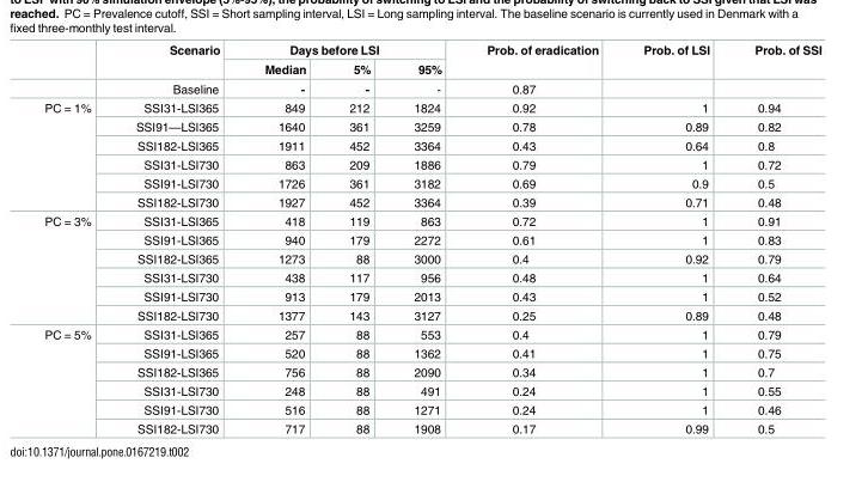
<table><thead><tr><td rowspan="2"></td><td rowspan="2">Scenario</td><td colspan="3">Days before LSI</td><td rowspan="2">Prob. of eradication</td><td rowspan="2">Prob. of LSI</td><td rowspan="2">Prob. of SSI</td></tr><tr><td>Median</td><td>5%</td><td>95%</td></tr></thead><tbody><tr><td></td><td>Baseline</td><td>-</td><td>-</td><td>-</td><td>0.87</td><td></td><td></td></tr><tr><td rowspan="6">PC = 1%</td><td>SSI31-LSI365</td><td>849</td><td>212</td><td>1824</td><td>0.92</td><td>1</td><td>0.94</td></tr><tr><td>SSI91—LSI365</td><td>1640</td><td>361</td><td>3259</td><td>0.78</td><td>0.89</td><td>0.82</td></tr><tr><td>SSI182-LSI365</td><td>1911</td><td>452</td><td>3364</td><td>0.43</td><td>0.64</td><td>0.8</td></tr><tr><td>SSI31-LSI730</td><td>863</td><td>209</td><td>1886</td><td>0.79</td><td>1</td><td>0.72</td></tr><tr><td>SSI91-LSI730</td><td>1726</td><td>361</td><td>3182</td><td>0.69</td><td>0.9</td><td>0.5</td></tr><tr><td>SSI182-LSI730</td><td>1927</td><td>452</td><td>3364</td><td>0.39</td><td>0.71</td><td>0.48</td></tr><tr><td rowspan="6">PC = 3%</td><td>SSI31-LSI365</td><td>418</td><td>119</td><td>863</td><td>0.72</td><td>1</td><td>0.91</td></tr><tr><td>SSI91-LSI365</td><td>940</td><td>179</td><td>2272</td><td>0.61</td><td>1</td><td>0.83</td></tr><tr><td>SSI182-LSI365</td><td>1273</td><td>88</td><td>3000</td><td>0.4</td><td>0.92</td><td>0.79</td></tr><tr><td>SSI31-LSI730</td><td>438</td><td>117</td><td>956</td><td>0.48</td><td>1</td><td>0.64</td></tr><tr><td>SSI91-LSI730</td><td>913</td><td>179</td><td>2013</td><td>0.43</td><td>1</td><td>0.52</td></tr><tr><td>SSI182-LSI730</td><td>1377</td><td>143</td><td>3127</td><td>0.25</td><td>0.89</td><td>0.48</td></tr><tr><td rowspan="6">PC = 5%</td><td>SSI31-LSI365</td><td>257</td><td>88</td><td>553</td><td>0.4</td><td>1</td><td>0.79</td></tr><tr><td>SSI91-LSI365</td><td>520</td><td>88</td><td>1362</td><td>0.41</td><td>1</td><td>0.75</td></tr><tr><td>SSI182-LSI365</td><td>756</td><td>88</td><td>2090</td><td>0.34</td><td>1</td><td>0.7</td></tr><tr><td>SSI31-LSI730</td><td>248</td><td>88</td><td>491</td><td>0.24</td><td>1</td><td>0.55</td></tr><tr><td>SSI91-LSI730</td><td>516</td><td>88</td><td>1271</td><td>0.24</td><td>1</td><td>0.46</td></tr><tr><td>SSI182-LSI730</td><td>717</td><td>88</td><td>1908</td><td>0.17</td><td>0.99</td><td>0.5</td></tr></tbody></table>